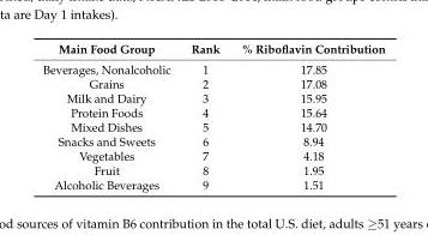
<table><thead><tr><td>Main Food Group</td><td>Rank</td><td>% Riboflavin Contribution</td></tr></thead><tbody><tr><td>Beverages, Nonalcoholic</td><td>1</td><td>17.85</td></tr><tr><td>Grains</td><td>2</td><td>17.08</td></tr><tr><td>Milk and Dairy</td><td>3</td><td>15.95</td></tr><tr><td>Protein Foods</td><td>4</td><td>15.64</td></tr><tr><td>Mixed Dishes</td><td>5</td><td>14.70</td></tr><tr><td>Snacks and Sweets</td><td>6</td><td>8.94</td></tr><tr><td>Vegetables</td><td>7</td><td>4.18</td></tr><tr><td>Fruit</td><td>8</td><td>1.95</td></tr><tr><td>Alcoholic Beverages</td><td>9</td><td>1.51</td></tr></tbody></table>